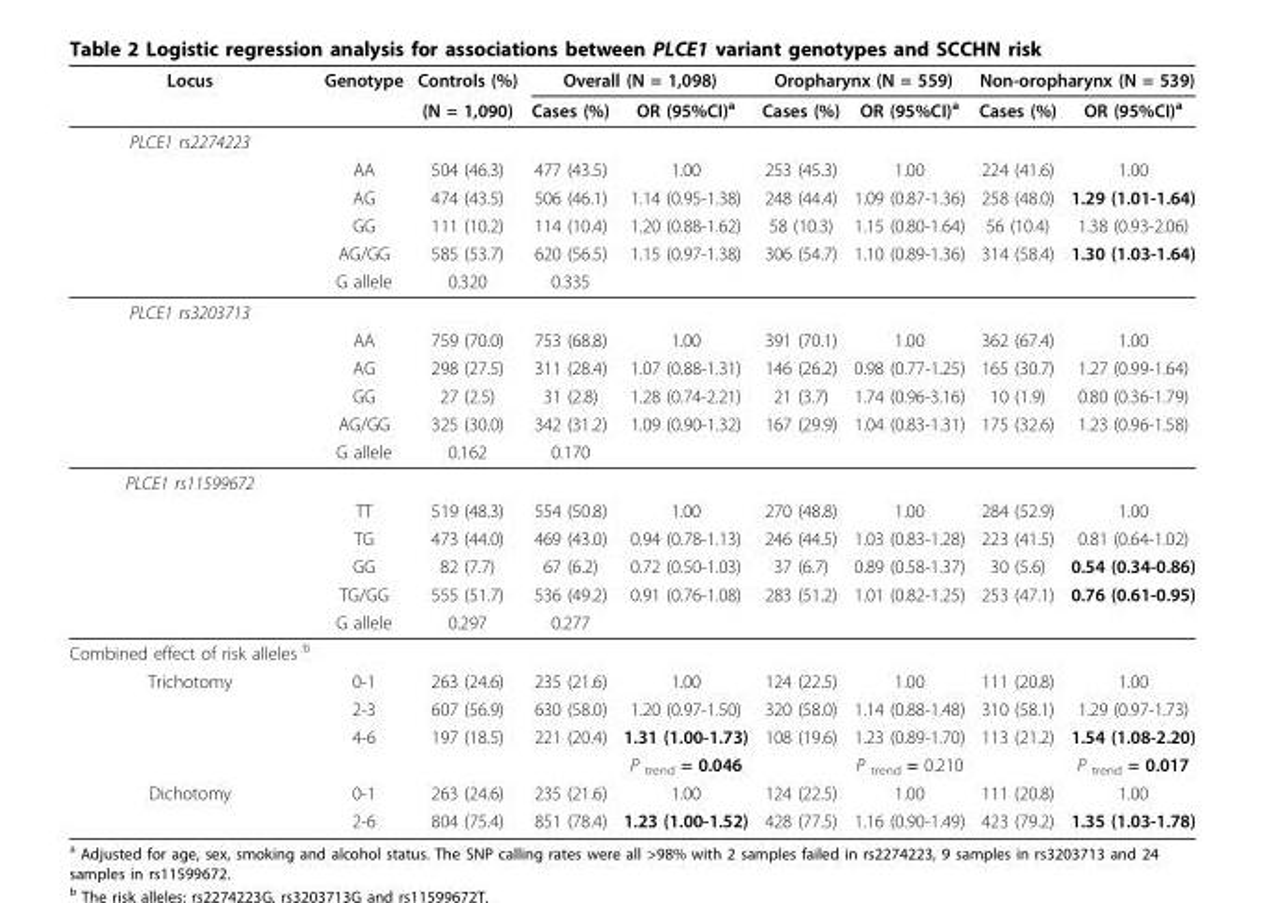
<table><thead><tr><td rowspan="2">Locus</td><td rowspan="2">Genotype</td><td rowspan="2">Controls (%) (N = 1,090)</td><td colspan="2">Overall (N = 1,098)</td><td colspan="2">Oropharynx (N = 559)</td><td colspan="2">Non-oropharynx (N = 539)</td></tr><tr><td>Cases (%)</td><td>OR (95%CI)<sup>a</sup></td><td>Cases (%)</td><td>OR (95%CI)<sup>a</sup></td><td>Cases (%)</td><td>OR (95%CI)<sup>a</sup></td></tr></thead><tbody><tr><td colspan="9">PLCE1 rs2274223</td></tr><tr><td></td><td>AA</td><td>504 (46.3)</td><td>477 (43.5)</td><td>1.00</td><td>253 (45.3)</td><td>1.00</td><td>224 (41.6)</td><td>1.00</td></tr><tr><td></td><td>AG</td><td>474 (43.5)</td><td>506 (46.1)</td><td>1.14 (0.95-1.38)</td><td>248 (44.4)</td><td>1.09 (0.87-1.36)</td><td>258 (48.0)</td><td>1.29 (1.01-1.64)</td></tr><tr><td></td><td>GG</td><td>111 (10.2)</td><td>114 (10.4)</td><td>1.20 (0.88-1.62)</td><td>58 (10.3)</td><td>1.15 (0.80-1.64)</td><td>56 (10.4)</td><td>1.38 (0.93-2.06)</td></tr><tr><td></td><td>AG/GG</td><td>585 (53.7)</td><td>620 (56.5)</td><td>1.15 (0.97-1.38)</td><td>306 (54.7)</td><td>1.10 (0.89-1.36)</td><td>314 (58.4)</td><td>1.30 (1.03-1.64)</td></tr><tr><td></td><td>G allele</td><td>0.320</td><td>0.335</td><td></td><td></td><td></td><td></td><td></td></tr><tr><td colspan="9">PLCE1 rs3203713</td></tr><tr><td></td><td>AA</td><td>759 (70.0)</td><td>753 (68.8)</td><td>1.00</td><td>391 (70.1)</td><td>1.00</td><td>362 (67.4)</td><td>1.00</td></tr><tr><td></td><td>AG</td><td>298 (27.5)</td><td>311 (28.4)</td><td>1.07 (0.88-1.31)</td><td>146 (26.2)</td><td>0.98 (0.77-1.25)</td><td>165 (30.7)</td><td>1.27 (0.99-1.64)</td></tr><tr><td></td><td>GG</td><td>27 (2.5)</td><td>31 (2.8)</td><td>1.28 (0.74-2.21)</td><td>21 (3.7)</td><td>1.74 (0.96-3.16)</td><td>10 (1.9)</td><td>0.80 (0.36-1.79)</td></tr><tr><td></td><td>AG/GG</td><td>325 (30.0)</td><td>342 (31.2)</td><td>1.09 (0.90-1.32)</td><td>167 (29.9)</td><td>1.04 (0.83-1.31)</td><td>175 (32.6)</td><td>1.23 (0.96-1.58)</td></tr><tr><td></td><td>G allele</td><td>0.162</td><td>0.170</td><td></td><td></td><td></td><td></td><td></td></tr><tr><td colspan="9">PLCE1 rs11599672</td></tr><tr><td></td><td>TT</td><td>519 (48.3)</td><td>554 (50.8)</td><td>1.00</td><td>270 (48.8)</td><td>1.00</td><td>284 (52.9)</td><td>1.00</td></tr><tr><td></td><td>TG</td><td>473 (44.0)</td><td>469 (43.0)</td><td>0.94 (0.78-1.13)</td><td>246 (44.5)</td><td>1.03 (0.83-1.28)</td><td>223 (41.5)</td><td>0.81 (0.64-1.02)</td></tr><tr><td></td><td>GG</td><td>82 (7.7)</td><td>67 (6.2)</td><td>0.72 (0.50-1.03)</td><td>37 (6.7)</td><td>0.89 (0.58-1.37)</td><td>30 (5.6)</td><td>0.54 (0.34-0.86)</td></tr><tr><td></td><td>TG/GG</td><td>555 (51.7)</td><td>536 (49.2)</td><td>0.91 (0.76-1.08)</td><td>283 (51.2)</td><td>1.01 (0.82-1.25)</td><td>253 (47.1)</td><td>0.76 (0.61-0.95)</td></tr><tr><td></td><td>G allele</td><td>0.297</td><td>0.277</td><td></td><td></td><td></td><td></td><td></td></tr><tr><td colspan="9">Combined effect of risk alleles <sup>b</sup></td></tr><tr><td rowspan="4">Trichotomy</td><td>0-1</td><td>263 (24.6)</td><td>235 (21.6)</td><td>1.00</td><td>124 (22.5)</td><td>1.00</td><td>111 (20.8)</td><td>1.00</td></tr><tr><td>2-3</td><td>607 (56.9)</td><td>630 (58.0)</td><td>1.20 (0.97-1.50)</td><td>320 (58.0)</td><td>1.14 (0.88-1.48)</td><td>310 (58.1)</td><td>1.29 (0.97-1.73)</td></tr><tr><td>4-6</td><td>197 (18.5)</td><td>221 (20.4)</td><td>1.31 (1.00-1.73)</td><td>108 (19.6)</td><td>1.23 (0.89-1.70)</td><td>113 (21.2)</td><td>1.54 (1.08-2.20)</td></tr><tr><td></td><td></td><td></td><td>P <sub>trend</sub> = 0.046</td><td></td><td>P <sub>trend</sub> = 0.210</td><td></td><td>P <sub>trend</sub> = 0.017</td></tr><tr><td rowspan="2">Dichotomy</td><td>0-1</td><td>263 (24.6)</td><td>235 (21.6)</td><td>1.00</td><td>124 (22.5)</td><td>1.00</td><td>111 (20.8)</td><td>1.00</td></tr><tr><td>2-6</td><td>804 (75.4)</td><td>851 (78.4)</td><td>1.23 (1.00-1.52)</td><td>428 (77.5)</td><td>1.16 (0.90-1.49)</td><td>423 (79.2)</td><td>1.35 (1.03-1.78)</td></tr></tbody></table>